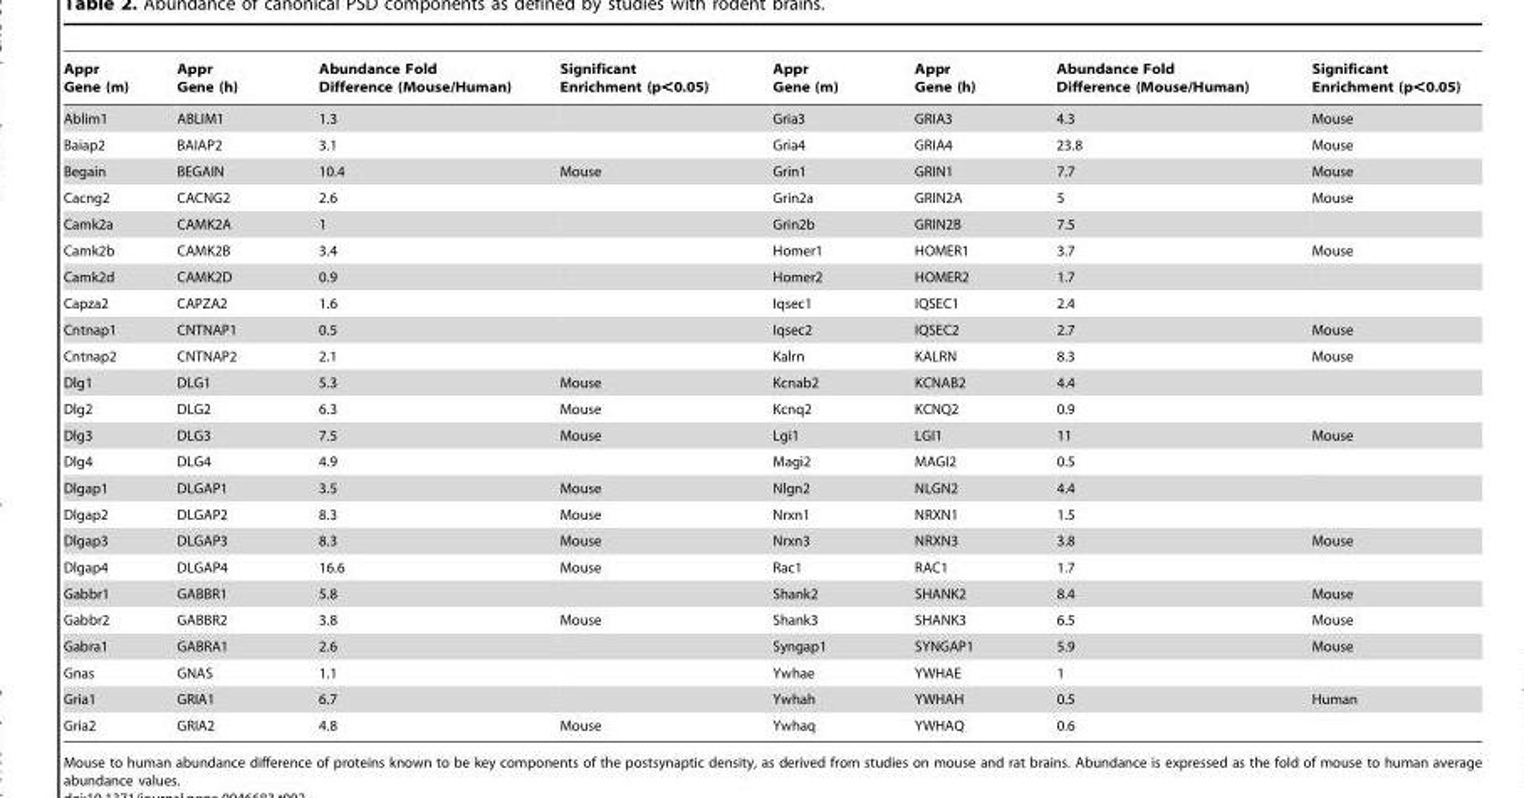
<table><thead><tr><td>Appr Gene (m)</td><td>Appr Gene (h)</td><td>Abundance Fold Difference (Mouse/Human)</td><td>Significant Enrichment (p&lt;0.05)</td><td>Appr Gene (m)</td><td>Appr Gene (h)</td><td>Abundance Fold Difference (Mouse/Human)</td><td>Significant Enrichment (p&lt;0.05)</td></tr></thead><tbody><tr><td>Ablim1</td><td>ABLIM1</td><td>1.3</td><td></td><td>Gria3</td><td>GRIA3</td><td>4.3</td><td>Mouse</td></tr><tr><td>Baiap2</td><td>BAIAP2</td><td>3.1</td><td></td><td>Gria4</td><td>GRIA4</td><td>23.8</td><td>Mouse</td></tr><tr><td>Begain</td><td>BEGAIN</td><td>10.4</td><td>Mouse</td><td>Grin1</td><td>GRIN1</td><td>7.7</td><td>Mouse</td></tr><tr><td>Cacng2</td><td>CACNG2</td><td>2.6</td><td></td><td>Grin2a</td><td>GRIN2A</td><td>5</td><td>Mouse</td></tr><tr><td>Camk2a</td><td>CAMK2A</td><td>1</td><td></td><td>Grin2b</td><td>GRIN2B</td><td>7.5</td><td></td></tr><tr><td>Camk2b</td><td>CAMK2B</td><td>3.4</td><td></td><td>Homer1</td><td>HOMER1</td><td>3.7</td><td>Mouse</td></tr><tr><td>Camk2d</td><td>CAMK2D</td><td>0.9</td><td></td><td>Homer2</td><td>HOMER2</td><td>1.7</td><td></td></tr><tr><td>Capza2</td><td>CAPZA2</td><td>1.6</td><td></td><td>Iqsec1</td><td>IQSEC1</td><td>2.4</td><td></td></tr><tr><td>Cntnap1</td><td>CNTNAP1</td><td>0.5</td><td></td><td>Iqsec2</td><td>IQSEC2</td><td>2.7</td><td>Mouse</td></tr><tr><td>Cntnap2</td><td>CNTNAP2</td><td>2.1</td><td></td><td>Kalrn</td><td>KALRN</td><td>8.3</td><td>Mouse</td></tr><tr><td>Dlg1</td><td>DLG1</td><td>5.3</td><td>Mouse</td><td>Kcnab2</td><td>KCNAB2</td><td>4.4</td><td></td></tr><tr><td>Dlg2</td><td>DLG2</td><td>6.3</td><td>Mouse</td><td>Kcnq2</td><td>KCNQ2</td><td>0.9</td><td></td></tr><tr><td>Dlg3</td><td>DLG3</td><td>7.5</td><td>Mouse</td><td>Lgi1</td><td>LGI1</td><td>11</td><td>Mouse</td></tr><tr><td>Dlg4</td><td>DLG4</td><td>4.9</td><td></td><td>Magi2</td><td>MAGI2</td><td>0.5</td><td></td></tr><tr><td>Dlgap1</td><td>DLGAP1</td><td>3.5</td><td>Mouse</td><td>Nlgn2</td><td>NLGN2</td><td>4.4</td><td></td></tr><tr><td>Dlgap2</td><td>DLGAP2</td><td>8.3</td><td>Mouse</td><td>Nrxn1</td><td>NRXN1</td><td>1.5</td><td></td></tr><tr><td>Dlgap3</td><td>DLGAP3</td><td>8.3</td><td>Mouse</td><td>Nrxn3</td><td>NRXN3</td><td>3.8</td><td>Mouse</td></tr><tr><td>Dlgap4</td><td>DLGAP4</td><td>16.6</td><td>Mouse</td><td>Rac1</td><td>RAC1</td><td>1.7</td><td></td></tr><tr><td>Gabbr1</td><td>GABBR1</td><td>5.8</td><td></td><td>Shank2</td><td>SHANK2</td><td>8.4</td><td>Mouse</td></tr><tr><td>Gabbr2</td><td>GABBR2</td><td>3.8</td><td>Mouse</td><td>Shank3</td><td>SHANK3</td><td>6.5</td><td>Mouse</td></tr><tr><td>Gabra1</td><td>GABRA1</td><td>2.6</td><td></td><td>Syngap1</td><td>SYNGAP1</td><td>5.9</td><td>Mouse</td></tr><tr><td>Gnas</td><td>GNAS</td><td>1.1</td><td></td><td>Ywhae</td><td>YWHAE</td><td>1</td><td></td></tr><tr><td>Gria1</td><td>GRIA1</td><td>6.7</td><td></td><td>Ywhah</td><td>YWHAH</td><td>0.5</td><td>Human</td></tr><tr><td>Gria2</td><td>GRIA2</td><td>4.8</td><td>Mouse</td><td>Ywhaq</td><td>YWHAQ</td><td>0.6</td><td></td></tr></tbody></table>